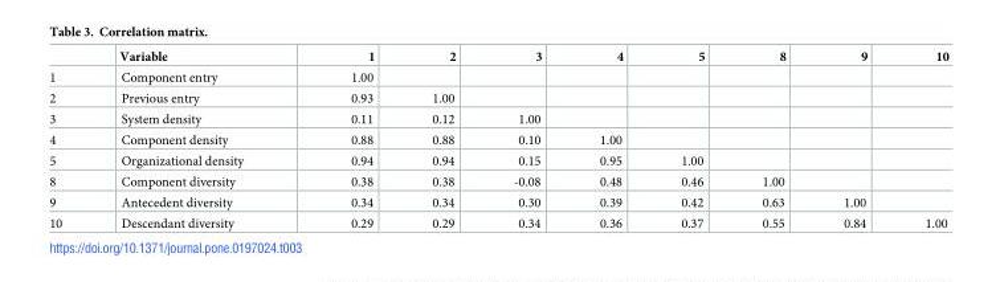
<table><thead><tr><td></td><td>Variable</td><td>1</td><td>2</td><td>3</td><td>4</td><td>5</td><td>8</td><td>9</td><td>10</td></tr></thead><tbody><tr><td>1</td><td>Component entry</td><td>1.00</td><td></td><td></td><td></td><td></td><td></td><td></td><td></td></tr><tr><td>2</td><td>Previous entry</td><td>0.93</td><td>1.00</td><td></td><td></td><td></td><td></td><td></td><td></td></tr><tr><td>3</td><td>System density</td><td>0.11</td><td>0.12</td><td>1.00</td><td></td><td></td><td></td><td></td><td></td></tr><tr><td>4</td><td>Component density</td><td>0.88</td><td>0.88</td><td>0.10</td><td>1.00</td><td></td><td></td><td></td><td></td></tr><tr><td>5</td><td>Organizational density</td><td>0.94</td><td>0.94</td><td>0.15</td><td>0.95</td><td>1.00</td><td></td><td></td><td></td></tr><tr><td>8</td><td>Component diversity</td><td>0.38</td><td>0.38</td><td>-0.08</td><td>0.48</td><td>0.46</td><td>1.00</td><td></td><td></td></tr><tr><td>9</td><td>Antecedent diversity</td><td>0.34</td><td>0.34</td><td>0.30</td><td>0.39</td><td>0.42</td><td>0.63</td><td>1.00</td><td></td></tr><tr><td>10</td><td>Descendant diversity</td><td>0.29</td><td>0.29</td><td>0.34</td><td>0.36</td><td>0.37</td><td>0.55</td><td>0.84</td><td>1.00</td></tr></tbody></table>